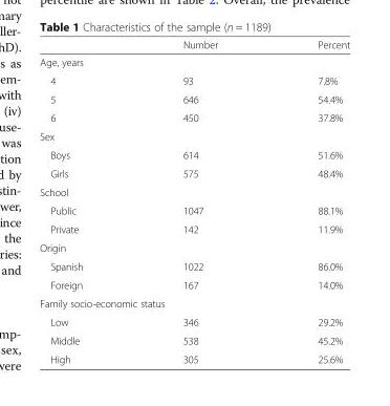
<table><thead><tr><td></td><td>Number</td><td>Percent</td></tr></thead><tbody><tr><td colspan="3">Age, years</td></tr><tr><td>4</td><td>93</td><td>7.8%</td></tr><tr><td>5</td><td>646</td><td>54.4%</td></tr><tr><td>6</td><td>450</td><td>37.8%</td></tr><tr><td colspan="3">Sex</td></tr><tr><td>Boys</td><td>614</td><td>51.6%</td></tr><tr><td>Girls</td><td>575</td><td>48.4%</td></tr><tr><td colspan="3">School</td></tr><tr><td>Public</td><td>1047</td><td>88.1%</td></tr><tr><td>Private</td><td>142</td><td>11.9%</td></tr><tr><td colspan="3">Origin</td></tr><tr><td>Spanish</td><td>1022</td><td>86.0%</td></tr><tr><td>Foreign</td><td>167</td><td>14.0%</td></tr><tr><td colspan="3">Family socio-economic status</td></tr><tr><td>Low</td><td>346</td><td>29.2%</td></tr><tr><td>Middle</td><td>538</td><td>45.2%</td></tr><tr><td>High</td><td>305</td><td>25.6%</td></tr></tbody></table>